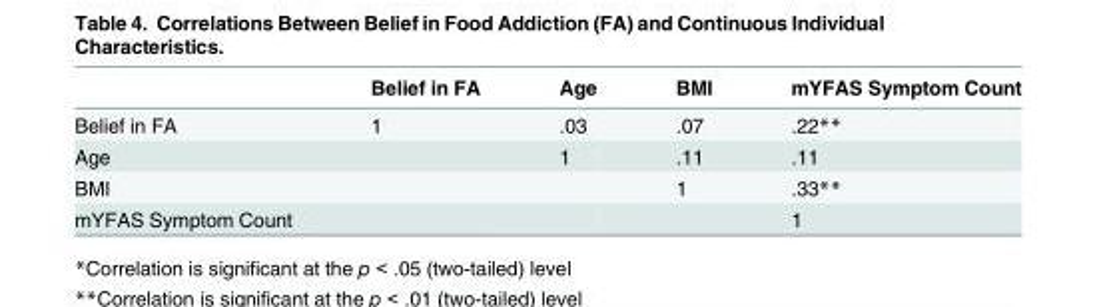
<table><thead><tr><td></td><td>Belief in FA</td><td>Age</td><td>BMI</td><td>mYFAS Symptom Count</td></tr></thead><tbody><tr><td>Belief in FA</td><td>1</td><td>.03</td><td>.07</td><td>.22**</td></tr><tr><td>Age</td><td></td><td>1</td><td>.11</td><td>.11</td></tr><tr><td>BMI</td><td></td><td></td><td>1</td><td>.33**</td></tr><tr><td>mYFAS Symptom Count</td><td></td><td></td><td></td><td>1</td></tr></tbody></table>